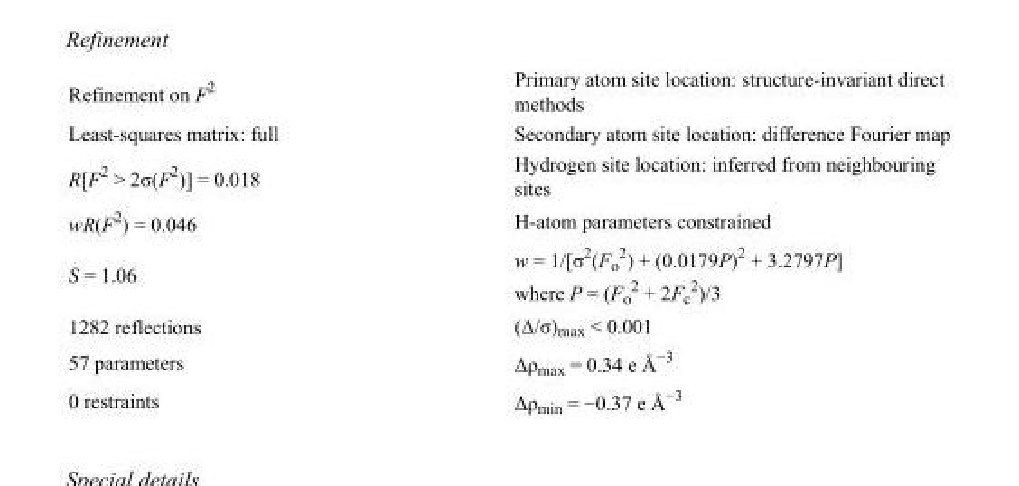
<table><tbody><tr><td>Refinement on F<sup>2</sup></td><td>Primary atom site location: structure-invariant direct methods</td></tr><tr><td>Least-squares matrix: full</td><td>Secondary atom site location: difference Fourier map</td></tr><tr><td>R[F<sup>2</sup> &gt; 2σ(F<sup>2</sup>)] = 0.018</td><td>Hydrogen site location: inferred from neighbouring sites</td></tr><tr><td>wR(F<sup>2</sup>) = 0.046</td><td>H-atom parameters constrained</td></tr><tr><td>S = 1.06</td><td>w = 1/[σ<sup>2</sup>(F<sub>o</sub> <sup>2</sup>) + (0.0179P)<sup>2</sup> + 3.2797P] where P = (F<sub>o</sub> <sup>2</sup> + 2F<sub>c</sub> <sup>2</sup>)/3</td></tr><tr><td>1282 reflections</td><td>(Δ/σ)<sub>max</sub> &lt; 0.001</td></tr><tr><td>57 parameters</td><td>Δρ<sub>max</sub> = 0.34 e Å<sup>−3</sup></td></tr><tr><td>0 restraints</td><td>Δρ<sub>min</sub> = −0.37 e Å<sup>−3</sup></td></tr></tbody></table>